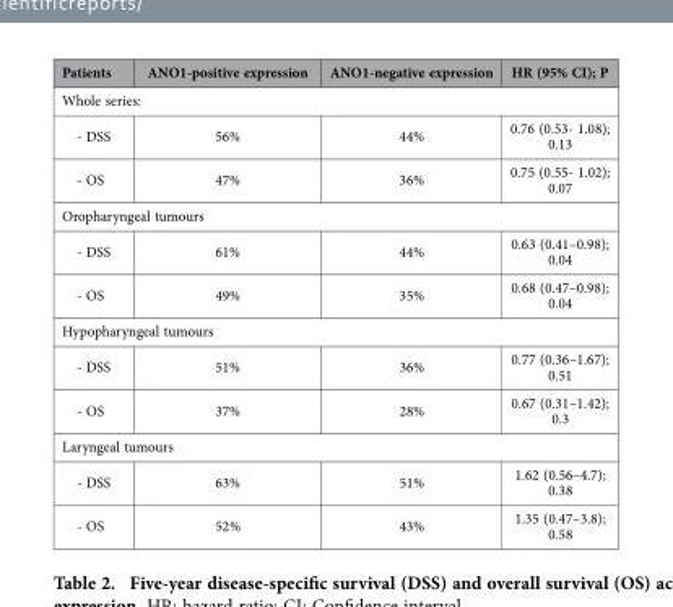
<table><thead><tr><td>Patients</td><td>ANO1-positive expression</td><td>ANO1-negative expression</td><td>HR (95% CI); P</td></tr></thead><tbody><tr><td colspan="4">Whole series:</td></tr><tr><td>- DSS</td><td>56%</td><td>44%</td><td>0.76 (0.53- 1.08); 0.13</td></tr><tr><td>- OS</td><td>47%</td><td>36%</td><td>0.75 (0.55- 1.02); 0.07</td></tr><tr><td colspan="4">Oropharyngeal tumours</td></tr><tr><td>- DSS</td><td>61%</td><td>44%</td><td>0.63 (0.41–0.98); 0.04</td></tr><tr><td>- OS</td><td>49%</td><td>35%</td><td>0.68 (0.47–0.98); 0.04</td></tr><tr><td colspan="4">Hypopharyngeal tumours</td></tr><tr><td>- DSS</td><td>51%</td><td>36%</td><td>0.77 (0.36–1.67); 0.51</td></tr><tr><td>- OS</td><td>37%</td><td>28%</td><td>0.67 (0.31–1.42); 0.3</td></tr><tr><td colspan="4">Laryngeal tumours</td></tr><tr><td>- DSS</td><td>63%</td><td>51%</td><td>1.62 (0.56–4.7); 0.38</td></tr><tr><td>- OS</td><td>52%</td><td>43%</td><td>1.35 (0.47–3.8); 0.58</td></tr></tbody></table>